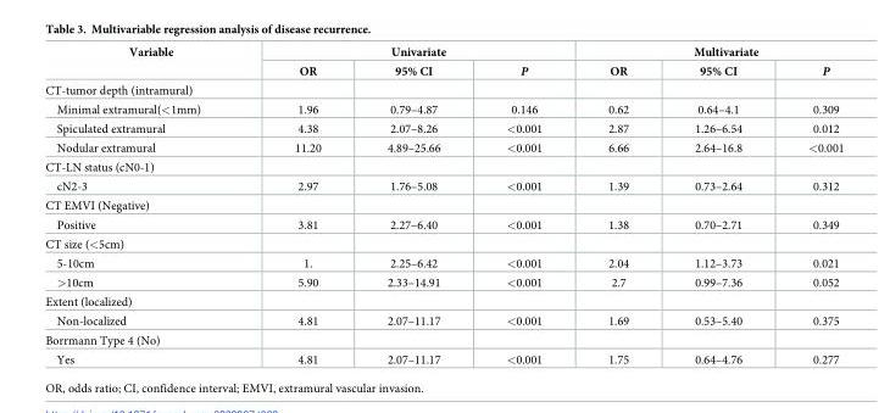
<table><thead><tr><td rowspan="2">Variable</td><td colspan="3">Univariate</td><td colspan="3">Multivariate</td></tr><tr><td>OR</td><td>95% CI</td><td>P</td><td>OR</td><td>95% CI</td><td>P</td></tr></thead><tbody><tr><td colspan="7">CT-tumor depth (intramural)</td></tr><tr><td>Minimal extramural(&lt;1mm)</td><td>1.96</td><td>0.79–4.87</td><td>0.146</td><td>0.62</td><td>0.64–4.1</td><td>0.309</td></tr><tr><td>Spiculated extramural</td><td>4.38</td><td>2.07–8.26</td><td>&lt;0.001</td><td>2.87</td><td>1.26–6.54</td><td>0.012</td></tr><tr><td>Nodular extramural</td><td>11.20</td><td>4.89–25.66</td><td>&lt;0.001</td><td>6.66</td><td>2.64–16.8</td><td>&lt;0.001</td></tr><tr><td colspan="7">CT-LN status (cN0-1)</td></tr><tr><td>cN2-3</td><td>2.97</td><td>1.76–5.08</td><td>&lt;0.001</td><td>1.39</td><td>0.73–2.64</td><td>0.312</td></tr><tr><td colspan="7">CT EMVI (Negative)</td></tr><tr><td>Positive</td><td>3.81</td><td>2.27–6.40</td><td>&lt;0.001</td><td>1.38</td><td>0.70–2.71</td><td>0.349</td></tr><tr><td colspan="7">CT size (&lt;5cm)</td></tr><tr><td>5-10cm</td><td>1.</td><td>2.25–6.42</td><td>&lt;0.001</td><td>2.04</td><td>1.12–3.73</td><td>0.021</td></tr><tr><td>&gt;10cm</td><td>5.90</td><td>2.33–14.91</td><td>&lt;0.001</td><td>2.7</td><td>0.99–7.36</td><td>0.052</td></tr><tr><td colspan="7">Extent (localized)</td></tr><tr><td>Non-localized</td><td>4.81</td><td>2.07–11.17</td><td>&lt;0.001</td><td>1.69</td><td>0.53–5.40</td><td>0.375</td></tr><tr><td colspan="7">Borrmann Type 4 (No)</td></tr><tr><td>Yes</td><td>4.81</td><td>2.07–11.17</td><td>&lt;0.001</td><td>1.75</td><td>0.64–4.76</td><td>0.277</td></tr></tbody></table>